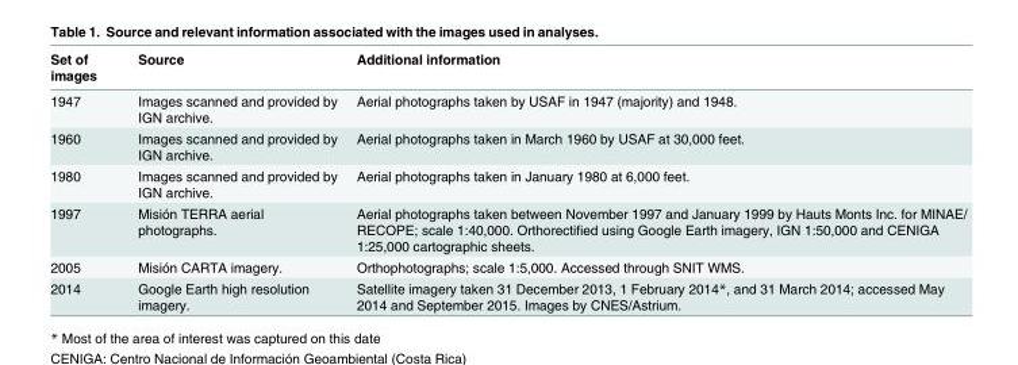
<table><thead><tr><td>Set of images</td><td>Source</td><td>Additional information</td></tr></thead><tbody><tr><td>1947</td><td>Images scanned and provided by IGN archive.</td><td>Aerial photographs taken by USAF in 1947 (majority) and 1948.</td></tr><tr><td>1960</td><td>Images scanned and provided by IGN archive.</td><td>Aerial photographs taken in March 1960 by USAF at 30,000 feet.</td></tr><tr><td>1980</td><td>Images scanned and provided by IGN archive.</td><td>Aerial photographs taken in January 1980 at 6,000 feet.</td></tr><tr><td>1997</td><td>Misión TERRA aerial photographs.</td><td>Aerial photographs taken between November 1997 and January 1999 by Hauts Monts Inc. for MINAE/ RECOPE; scale 1:40,000. Orthorectified using Google Earth imagery, IGN 1:50,000 and CENIGA 1:25,000 cartographic sheets.</td></tr><tr><td>2005</td><td>Misión CARTA imagery.</td><td>Orthophotographs; scale 1:5,000. Accessed through SNIT WMS.</td></tr><tr><td>2014</td><td>Google Earth high resolution imagery.</td><td>Satellite imagery taken 31 December 2013, 1 February 2014*, and 31 March 2014; accessed May 2014 and September 2015. Images by CNES/Astrium.</td></tr></tbody></table>